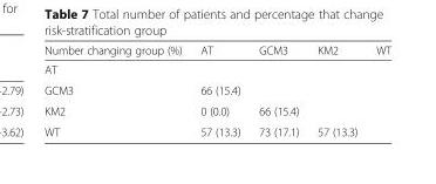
<table><thead><tr><td>Number changing group (%)</td><td>AT</td><td>GCM3</td><td>KM2</td><td>WT</td></tr></thead><tbody><tr><td colspan="5">AT</td></tr><tr><td>GCM3</td><td>66 (15.4)</td><td></td><td></td><td></td></tr><tr><td>KM2</td><td>0 (0.0)</td><td>66 (15.4)</td><td></td><td></td></tr><tr><td>WT</td><td>57 (13.3)</td><td>73 (17.1)</td><td>57 (13.3)</td><td></td></tr></tbody></table>